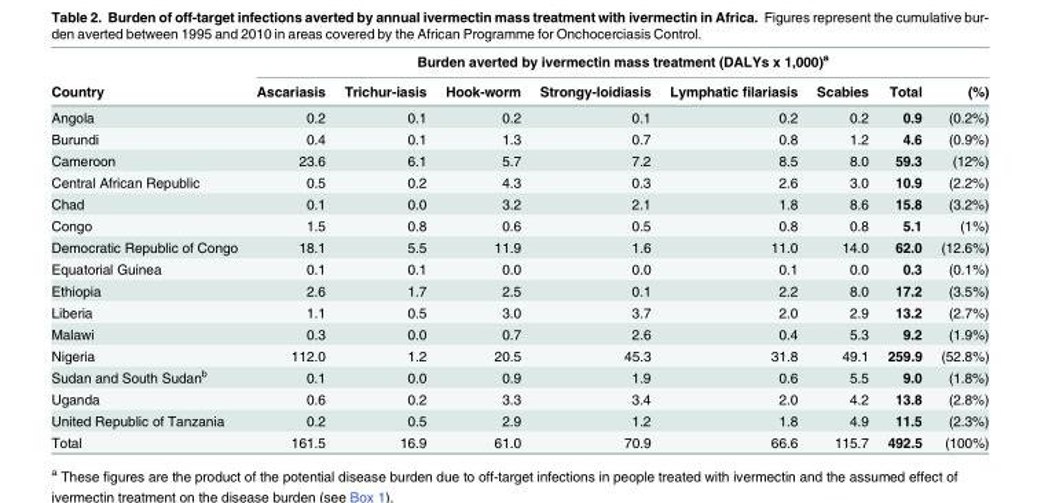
<table><thead><tr><td rowspan="2">Country</td><td colspan="8">Burden averted by ivermectin mass treatment (DALYs x 1,000)<sup>a</sup></td></tr><tr><td>Ascariasis</td><td>Trichur-iasis</td><td>Hook-worm</td><td>Strongy-loidiasis</td><td>Lymphatic filariasis</td><td>Scabies</td><td>Total</td><td>(%)</td></tr></thead><tbody><tr><td>Angola</td><td>0.2</td><td>0.1</td><td>0.2</td><td>0.1</td><td>0.2</td><td>0.2</td><td>0.9</td><td>(0.2%)</td></tr><tr><td>Burundi</td><td>0.4</td><td>0.1</td><td>1.3</td><td>0.7</td><td>0.8</td><td>1.2</td><td>4.6</td><td>(0.9%)</td></tr><tr><td>Cameroon</td><td>23.6</td><td>6.1</td><td>5.7</td><td>7.2</td><td>8.5</td><td>8.0</td><td>59.3</td><td>(12%)</td></tr><tr><td>Central African Republic</td><td>0.5</td><td>0.2</td><td>4.3</td><td>0.3</td><td>2.6</td><td>3.0</td><td>10.9</td><td>(2.2%)</td></tr><tr><td>Chad</td><td>0.1</td><td>0.0</td><td>3.2</td><td>2.1</td><td>1.8</td><td>8.6</td><td>15.8</td><td>(3.2%)</td></tr><tr><td>Congo</td><td>1.5</td><td>0.8</td><td>0.6</td><td>0.5</td><td>0.8</td><td>0.8</td><td>5.1</td><td>(1%)</td></tr><tr><td>Democratic Republic of Congo</td><td>18.1</td><td>5.5</td><td>11.9</td><td>1.6</td><td>11.0</td><td>14.0</td><td>62.0</td><td>(12.6%)</td></tr><tr><td>Equatorial Guinea</td><td>0.1</td><td>0.1</td><td>0.0</td><td>0.0</td><td>0.1</td><td>0.0</td><td>0.3</td><td>(0.1%)</td></tr><tr><td>Ethiopia</td><td>2.6</td><td>1.7</td><td>2.5</td><td>0.1</td><td>2.2</td><td>8.0</td><td>17.2</td><td>(3.5%)</td></tr><tr><td>Liberia</td><td>1.1</td><td>0.5</td><td>3.0</td><td>3.7</td><td>2.0</td><td>2.9</td><td>13.2</td><td>(2.7%)</td></tr><tr><td>Malawi</td><td>0.3</td><td>0.0</td><td>0.7</td><td>2.6</td><td>0.4</td><td>5.3</td><td>9.2</td><td>(1.9%)</td></tr><tr><td>Nigeria</td><td>112.0</td><td>1.2</td><td>20.5</td><td>45.3</td><td>31.8</td><td>49.1</td><td>259.9</td><td>(52.8%)</td></tr><tr><td>Sudan and South Sudan<sup>b</sup></td><td>0.1</td><td>0.0</td><td>0.9</td><td>1.9</td><td>0.6</td><td>5.5</td><td>9.0</td><td>(1.8%)</td></tr><tr><td>Uganda</td><td>0.6</td><td>0.2</td><td>3.3</td><td>3.4</td><td>2.0</td><td>4.2</td><td>13.8</td><td>(2.8%)</td></tr><tr><td>United Republic of Tanzania</td><td>0.2</td><td>0.5</td><td>2.9</td><td>1.2</td><td>1.8</td><td>4.9</td><td>11.5</td><td>(2.3%)</td></tr><tr><td>Total</td><td>161.5</td><td>16.9</td><td>61.0</td><td>70.9</td><td>66.6</td><td>115.7</td><td>492.5</td><td>(100%)</td></tr></tbody></table>